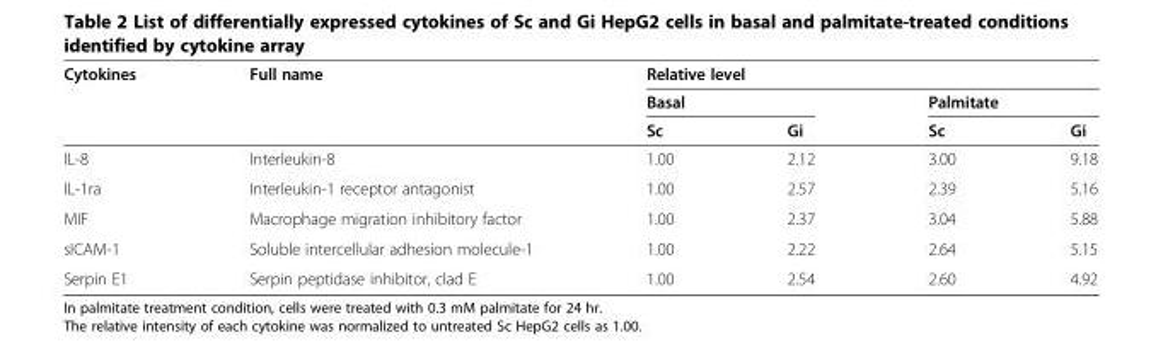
<table><thead><tr><td rowspan="3">Cytokines</td><td rowspan="3">Full name</td><td colspan="4">Relative level</td></tr><tr><td colspan="2">Basal</td><td colspan="2">Palmitate</td></tr><tr><td>Sc</td><td>Gi</td><td>Sc</td><td>Gi</td></tr></thead><tbody><tr><td>IL-8</td><td>Interleukin-8</td><td>1.00</td><td>2.12</td><td>3.00</td><td>9.18</td></tr><tr><td>IL-1ra</td><td>Interleukin-1 receptor antagonist</td><td>1.00</td><td>2.57</td><td>2.39</td><td>5.16</td></tr><tr><td>MIF</td><td>Macrophage migration inhibitory factor</td><td>1.00</td><td>2.37</td><td>3.04</td><td>5.88</td></tr><tr><td>sICAM-1</td><td>Soluble intercellular adhesion molecule-1</td><td>1.00</td><td>2.22</td><td>2.64</td><td>5.15</td></tr><tr><td>Serpin E1</td><td>Serpin peptidase inhibitor, clad E</td><td>1.00</td><td>2.54</td><td>2.60</td><td>4.92</td></tr></tbody></table>